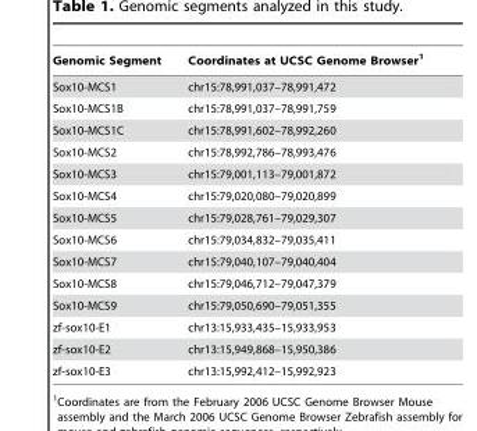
<table><thead><tr><td>Genomic Segment</td><td>Coordinates at UCSC Genome Browser<sup>1</sup></td></tr></thead><tbody><tr><td>Sox10-MCS1</td><td>chr15:78,991,037–78,991,472</td></tr><tr><td>Sox10-MCS1B</td><td>chr15:78,991,037–78,991,759</td></tr><tr><td>Sox10-MCS1C</td><td>chr15:78,991,602–78,992,260</td></tr><tr><td>Sox10-MCS2</td><td>chr15:78,992,786–78,993,476</td></tr><tr><td>Sox10-MCS3</td><td>chr15:79,001,113–79,001,872</td></tr><tr><td>Sox10-MCS4</td><td>chr15:79,020,080–79,020,899</td></tr><tr><td>Sox10-MCS5</td><td>chr15:79,028,761–79,029,307</td></tr><tr><td>Sox10-MCS6</td><td>chr15:79,034,832–79,035,411</td></tr><tr><td>Sox10-MCS7</td><td>chr15:79,040,107–79,040,404</td></tr><tr><td>Sox10-MCS8</td><td>chr15:79,046,712–79,047,379</td></tr><tr><td>Sox10-MCS9</td><td>chr15:79,050,690–79,051,355</td></tr><tr><td>zf-sox10-E1</td><td>chr13:15,933,435–15,933,953</td></tr><tr><td>zf-sox10-E2</td><td>chr13:15,949,868–15,950,386</td></tr><tr><td>zf-sox10-E3</td><td>chr13:15,992,412–15,992,923</td></tr></tbody></table>